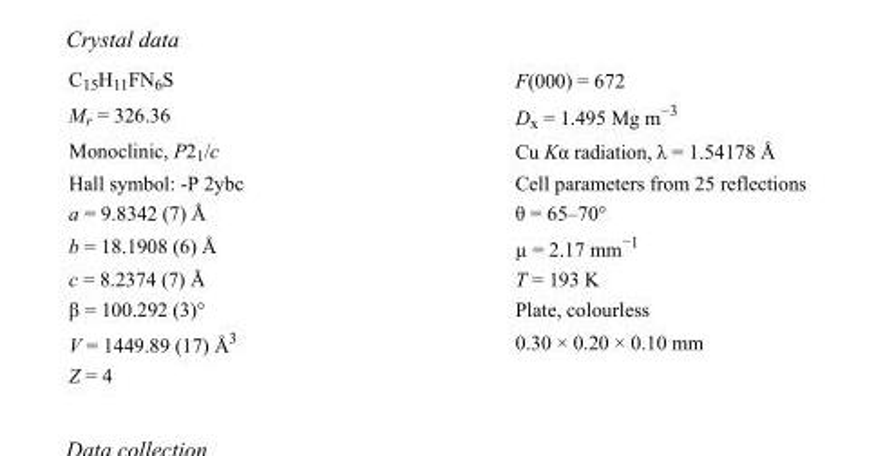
<table><tbody><tr><td>C<sub>15</sub>H<sub>11</sub>FN<sub>6</sub>S</td><td>F(000) = 672</td></tr><tr><td>M<sub>r</sub> = 326.36</td><td>D<sub>x</sub> = 1.495 Mg m<sup>−3</sup></td></tr><tr><td>Monoclinic, P2<sub>1</sub>/c</td><td>Cu Kα radiation, λ = 1.54178 Å</td></tr><tr><td>Hall symbol: -P 2ybc</td><td>Cell parameters from 25 reflections</td></tr><tr><td>a = 9.8342 (7) Å</td><td>θ = 65–70°</td></tr><tr><td>b = 18.1908 (6) Å</td><td>µ = 2.17 mm<sup>−1</sup></td></tr><tr><td>c = 8.2374 (7) Å</td><td>T = 193 K</td></tr><tr><td>β = 100.292 (3)°</td><td>Plate, colourless</td></tr><tr><td>V = 1449.89 (17) Å<sup>3</sup></td><td>0.30 × 0.20 × 0.10 mm</td></tr><tr><td>Z = 4</td><td></td></tr></tbody></table>